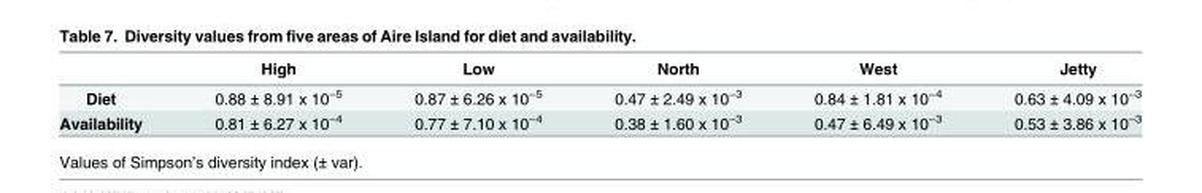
<table><thead><tr><td></td><td>High</td><td>Low</td><td>North</td><td>West</td><td>Jetty</td></tr></thead><tbody><tr><td>Diet</td><td>0.88 ± 8.91 x 10<sup>−5</sup></td><td>0.87 ± 6.26 x 10<sup>−5</sup></td><td>0.47 ± 2.49 x 10<sup>−3</sup></td><td>0.84 ± 1.81 x 10<sup>−4</sup></td><td>0.63 ± 4.09 x 10<sup>−3</sup></td></tr><tr><td>Availability</td><td>0.81 ± 6.27 x 10<sup>−4</sup></td><td>0.77 ± 7.10 x 10<sup>−4</sup></td><td>0.38 ± 1.60 x 10<sup>−3</sup></td><td>0.47 ± 6.49 x 10<sup>−3</sup></td><td>0.53 ± 3.86 x 10<sup>−3</sup></td></tr></tbody></table>